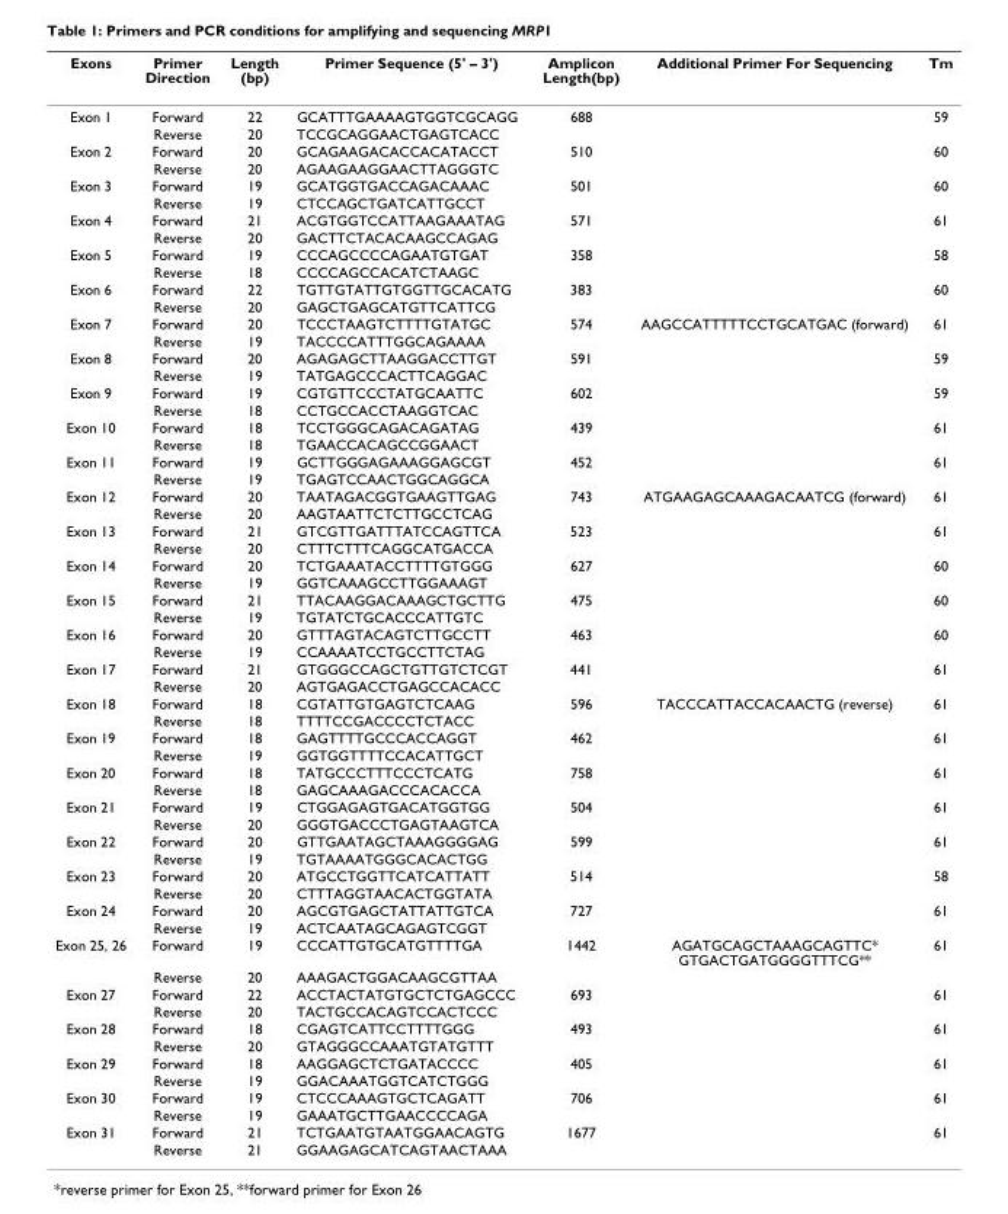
<table><thead><tr><td>Exons</td><td>Primer Direction</td><td>Length (bp)</td><td>Primer Sequence (5&#x27; – 3&#x27;)</td><td>Amplicon Length(bp)</td><td>Additional Primer For Sequencing</td><td>Tm</td></tr></thead><tbody><tr><td rowspan="2">Exon 1</td><td>Forward</td><td>22</td><td>GCATTTGAAAAGTGGTCGCAGG</td><td>688</td><td></td><td>59</td></tr><tr><td>Reverse</td><td>20</td><td>TCCGCAGGAACTGAGTCACC</td><td></td><td></td><td></td></tr><tr><td rowspan="2">Exon 2</td><td>Forward</td><td>20</td><td>GCAGAAGACACCACATACCT</td><td>510</td><td></td><td>60</td></tr><tr><td>Reverse</td><td>20</td><td>AGAAGAAGGAACTTAGGGTC</td><td></td><td></td><td></td></tr><tr><td rowspan="2">Exon 3</td><td>Forward</td><td>19</td><td>GCATGGTGACCAGACAAAC</td><td>501</td><td></td><td>60</td></tr><tr><td>Reverse</td><td>19</td><td>CTCCAGCTGATCATTGCCT</td><td></td><td></td><td></td></tr><tr><td rowspan="2">Exon 4</td><td>Forward</td><td>21</td><td>ACGTGGTCCATTAAGAAATAG</td><td>571</td><td></td><td>61</td></tr><tr><td>Reverse</td><td>20</td><td>GACTTCTACACAAGCCAGAG</td><td></td><td></td><td></td></tr><tr><td rowspan="2">Exon 5</td><td>Forward</td><td>19</td><td>CCCAGCCCCAGAATGTGAT</td><td>358</td><td></td><td>58</td></tr><tr><td>Reverse</td><td>18</td><td>CCCCAGCCACATCTAAGC</td><td></td><td></td><td></td></tr><tr><td rowspan="2">Exon 6</td><td>Forward</td><td>22</td><td>TGTTGTATTGTGGTTGCACATG</td><td>383</td><td></td><td>60</td></tr><tr><td>Reverse</td><td>20</td><td>GAGCTGAGCATGTTCATTCG</td><td></td><td></td><td></td></tr><tr><td rowspan="2">Exon 7</td><td>Forward</td><td>20</td><td>TCCCTAAGTCTTTTGTATGC</td><td>574</td><td>AAGCCATTTTTCCTGCATGAC (forward)</td><td>61</td></tr><tr><td>Reverse</td><td>19</td><td>TACCCCATTTGGCAGAAAA</td><td></td><td></td><td></td></tr><tr><td rowspan="2">Exon 8</td><td>Forward</td><td>20</td><td>AGAGAGCTTAAGGACCTTGT</td><td>591</td><td></td><td>59</td></tr><tr><td>Reverse</td><td>19</td><td>TATGAGCCCACTTCAGGAC</td><td></td><td></td><td></td></tr><tr><td rowspan="2">Exon 9</td><td>Forward</td><td>19</td><td>CGTGTTCCCTATGCAATTC</td><td>602</td><td></td><td>59</td></tr><tr><td>Reverse</td><td>18</td><td>CCTGCCACCTAAGGTCAC</td><td></td><td></td><td></td></tr><tr><td rowspan="2">Exon 10</td><td>Forward</td><td>18</td><td>TCCTGGGCAGACAGATAG</td><td>439</td><td></td><td>61</td></tr><tr><td>Reverse</td><td>18</td><td>TGAACCACAGCCGGAACT</td><td></td><td></td><td></td></tr><tr><td rowspan="2">Exon 11</td><td>Forward</td><td>19</td><td>GCTTGGGAGAAAGGAGCGT</td><td>452</td><td></td><td>61</td></tr><tr><td>Reverse</td><td>19</td><td>TGAGTCCAACTGGCAGGCA</td><td></td><td></td><td></td></tr><tr><td rowspan="2">Exon 12</td><td>Forward</td><td>20</td><td>TAATAGACGGTGAAGTTGAG</td><td>743</td><td>ATGAAGAGCAAAGACAATCG (forward)</td><td>61</td></tr><tr><td>Reverse</td><td>20</td><td>AAGTAATTCTCTTGCCTCAG</td><td></td><td></td><td></td></tr><tr><td rowspan="2">Exon 13</td><td>Forward</td><td>21</td><td>GTCGTTGATTTATCCAGTTCA</td><td>523</td><td></td><td>61</td></tr><tr><td>Reverse</td><td>20</td><td>CTTTCTTTCAGGCATGACCA</td><td></td><td></td><td></td></tr><tr><td rowspan="2">Exon 14</td><td>Forward</td><td>20</td><td>TCTGAAATACCTTTTGTGGG</td><td>627</td><td></td><td>60</td></tr><tr><td>Reverse</td><td>19</td><td>GGTCAAAGCCTTGGAAAGT</td><td></td><td></td><td></td></tr><tr><td rowspan="2">Exon 15</td><td>Forward</td><td>21</td><td>TTACAAGGACAAAGCTGCTTG</td><td>475</td><td></td><td>60</td></tr><tr><td>Reverse</td><td>19</td><td>TGTATCTGCACCCATTGTC</td><td></td><td></td><td></td></tr><tr><td rowspan="2">Exon 16</td><td>Forward</td><td>20</td><td>GTTTAGTACAGTCTTGCCTT</td><td>463</td><td></td><td>60</td></tr><tr><td>Reverse</td><td>19</td><td>CCAAAATCCTGCCTTCTAG</td><td></td><td></td><td></td></tr><tr><td rowspan="2">Exon 17</td><td>Forward</td><td>21</td><td>GTGGGCCAGCTGTTGTCTCGT</td><td>441</td><td></td><td>61</td></tr><tr><td>Reverse</td><td>20</td><td>AGTGAGACCTGAGCCACACC</td><td></td><td></td><td></td></tr><tr><td rowspan="2">Exon 18</td><td>Forward</td><td>18</td><td>CGTATTGTGAGTCTCAAG</td><td>596</td><td>TACCCATTACCACAACTG (reverse)</td><td>61</td></tr><tr><td>Reverse</td><td>18</td><td>TTTTCCGACCCCTCTACC</td><td></td><td></td><td></td></tr><tr><td rowspan="2">Exon 19</td><td>Forward</td><td>18</td><td>GAGTTTTGCCCACCAGGT</td><td>462</td><td></td><td>61</td></tr><tr><td>Reverse</td><td>19</td><td>GGTGGTTTTCCACATTGCT</td><td></td><td></td><td></td></tr><tr><td rowspan="2">Exon 20</td><td>Forward</td><td>18</td><td>TATGCCCTTTCCCTCATG</td><td>758</td><td></td><td>61</td></tr><tr><td>Reverse</td><td>18</td><td>GAGCAAAGACCCACACCA</td><td></td><td></td><td></td></tr><tr><td rowspan="2">Exon 21</td><td>Forward</td><td>19</td><td>CTGGAGAGTGACATGGTGG</td><td>504</td><td></td><td>61</td></tr><tr><td>Reverse</td><td>20</td><td>GGGTGACCCTGAGTAAGTCA</td><td></td><td></td><td></td></tr><tr><td rowspan="2">Exon 22</td><td>Forward</td><td>20</td><td>GTTGAATAGCTAAAGGGGAG</td><td>599</td><td></td><td>61</td></tr><tr><td>Reverse</td><td>19</td><td>TGTAAAATGGGCACACTGG</td><td></td><td></td><td></td></tr><tr><td rowspan="2">Exon 23</td><td>Forward</td><td>20</td><td>ATGCCTGGTTCATCATTATT</td><td>514</td><td></td><td>58</td></tr><tr><td>Reverse</td><td>20</td><td>CTTTAGGTAACACTGGTATA</td><td></td><td></td><td></td></tr><tr><td rowspan="2">Exon 24</td><td>Forward</td><td>20</td><td>AGCGTGAGCTATTATTGTCA</td><td>727</td><td></td><td>61</td></tr><tr><td>Reverse</td><td>19</td><td>ACTCAATAGCAGAGTCGGT</td><td></td><td></td><td></td></tr><tr><td rowspan="2">Exon 25, 26</td><td>Forward</td><td>19</td><td>CCCATTGTGCATGTTTTGA</td><td>1442</td><td>AGATGCAGCTAAAGCAGTTC* GTGACTGATGGGGTTTCG**</td><td>61</td></tr><tr><td>Reverse</td><td>20</td><td>AAAGACTGGACAAGCGTTAA</td><td></td><td></td><td></td></tr><tr><td rowspan="2">Exon 27</td><td>Forward</td><td>22</td><td>ACCTACTATGTGCTCTGAGCCC</td><td>693</td><td></td><td>61</td></tr><tr><td>Reverse</td><td>20</td><td>TACTGCCACAGTCCACTCCC</td><td></td><td></td><td></td></tr><tr><td rowspan="2">Exon 28</td><td>Forward</td><td>18</td><td>CGAGTCATTCCTTTTGGG</td><td>493</td><td></td><td>61</td></tr><tr><td>Reverse</td><td>20</td><td>GTAGGGCCAAATGTATGTTT</td><td></td><td></td><td></td></tr><tr><td rowspan="2">Exon 29</td><td>Forward</td><td>18</td><td>AAGGAGCTCTGATACCCC</td><td>405</td><td></td><td>61</td></tr><tr><td>Reverse</td><td>19</td><td>GGACAAATGGTCATCTGGG</td><td></td><td></td><td></td></tr><tr><td rowspan="2">Exon 30</td><td>Forward</td><td>19</td><td>CTCCCAAAGTGCTCAGATT</td><td>706</td><td></td><td>61</td></tr><tr><td>Reverse</td><td>19</td><td>GAAATGCTTGAACCCCAGA</td><td></td><td></td><td></td></tr><tr><td rowspan="2">Exon 31</td><td>Forward</td><td>21</td><td>TCTGAATGTAATGGAACAGTG</td><td>1677</td><td></td><td>61</td></tr><tr><td>Reverse</td><td>21</td><td>GGAAGAGCATCAGTAACTAAA</td><td></td><td></td><td></td></tr></tbody></table>